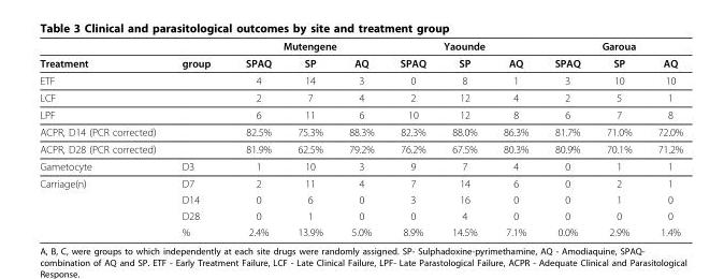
<table><thead><tr><td rowspan="2">Treatment</td><td rowspan="2">group</td><td colspan="3">Mutengene</td><td colspan="3">Yaounde</td><td colspan="3">Garoua</td></tr><tr><td>SPAQ</td><td>SP</td><td>AQ</td><td>SPAQ</td><td>SP</td><td>AQ</td><td>SPAQ</td><td>SP</td><td>AQ</td></tr></thead><tbody><tr><td>ETF</td><td></td><td>4</td><td>14</td><td>3</td><td>0</td><td>8</td><td>1</td><td>3</td><td>10</td><td>10</td></tr><tr><td>LCF</td><td></td><td>2</td><td>7</td><td>4</td><td>2</td><td>12</td><td>4</td><td>2</td><td>5</td><td>1</td></tr><tr><td>LPF</td><td></td><td>6</td><td>11</td><td>6</td><td>10</td><td>12</td><td>8</td><td>6</td><td>7</td><td>8</td></tr><tr><td>ACPR, D14 (PCR corrected)</td><td></td><td>82.5%</td><td>75.3%</td><td>88.3%</td><td>82.3%</td><td>88.0%</td><td>86.3%</td><td>81.7%</td><td>71.0%</td><td>72.0%</td></tr><tr><td>ACPR, D28 (PCR corrected)</td><td></td><td>81.9%</td><td>62.5%</td><td>79.2%</td><td>76.2%</td><td>67.5%</td><td>80.3%</td><td>80.9%</td><td>70.1%</td><td>71.2%</td></tr><tr><td>Gametocyte</td><td>D3</td><td>1</td><td>10</td><td>3</td><td>9</td><td>7</td><td>4</td><td>0</td><td>1</td><td>1</td></tr><tr><td rowspan="4">Carriage(n)</td><td>D7</td><td>2</td><td>11</td><td>4</td><td>7</td><td>14</td><td>6</td><td>0</td><td>2</td><td>1</td></tr><tr><td>D14</td><td>0</td><td>6</td><td>0</td><td>3</td><td>16</td><td>0</td><td>0</td><td>1</td><td>0</td></tr><tr><td>D28</td><td>0</td><td>1</td><td>0</td><td>0</td><td>4</td><td>0</td><td>0</td><td>0</td><td>0</td></tr><tr><td>%</td><td>2.4%</td><td>13.9%</td><td>5.0%</td><td>8.9%</td><td>14.5%</td><td>7.1%</td><td>0.0%</td><td>2.9%</td><td>1.4%</td></tr></tbody></table>